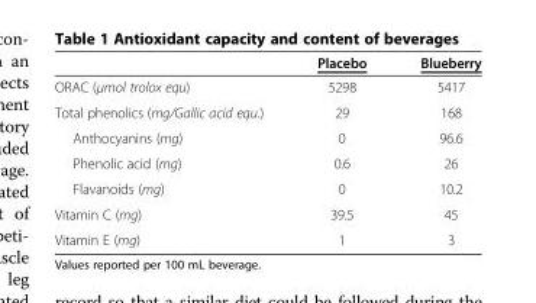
<table><thead><tr><td></td><td>Placebo</td><td>Blueberry</td></tr></thead><tbody><tr><td>ORAC (μmol trolox equ)</td><td>5298</td><td>5417</td></tr><tr><td>Total phenolics (mg/Gallic acid equ.)</td><td>29</td><td>168</td></tr><tr><td>Anthocyanins (mg)</td><td>0</td><td>96.6</td></tr><tr><td>Phenolic acid (mg)</td><td>0.6</td><td>26</td></tr><tr><td>Flavanoids (mg)</td><td>0</td><td>10.2</td></tr><tr><td>Vitamin C (mg)</td><td>39.5</td><td>45</td></tr><tr><td>Vitamin E (mg)</td><td>1</td><td>3</td></tr></tbody></table>